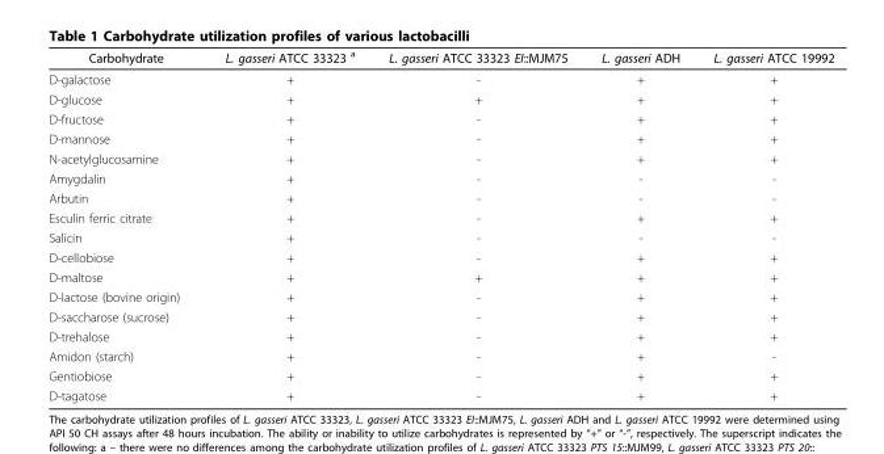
<table><thead><tr><td>Carbohydrate</td><td>L. gasseri ATCC 33323 <sup>a</sup></td><td>L. gasseri ATCC 33323 EI::MJM75</td><td>L. gasseri ADH</td><td>L. gasseri ATCC 19992</td></tr></thead><tbody><tr><td>D-galactose</td><td>+</td><td>-</td><td>+</td><td>+</td></tr><tr><td>D-glucose</td><td>+</td><td>+</td><td>+</td><td>+</td></tr><tr><td>D-fructose</td><td>+</td><td>-</td><td>+</td><td>+</td></tr><tr><td>D-mannose</td><td>+</td><td>-</td><td>+</td><td>+</td></tr><tr><td>N-acetylglucosamine</td><td>+</td><td>-</td><td>+</td><td>+</td></tr><tr><td>Amygdalin</td><td>+</td><td>-</td><td>-</td><td>-</td></tr><tr><td>Arbutin</td><td>+</td><td>-</td><td>-</td><td>-</td></tr><tr><td>Esculin ferric citrate</td><td>+</td><td>-</td><td>+</td><td>+</td></tr><tr><td>Salicin</td><td>+</td><td>-</td><td>-</td><td>-</td></tr><tr><td>D-cellobiose</td><td>+</td><td>-</td><td>+</td><td>+</td></tr><tr><td>D-maltose</td><td>+</td><td>+</td><td>+</td><td>+</td></tr><tr><td>D-lactose (bovine origin)</td><td>+</td><td>-</td><td>+</td><td>+</td></tr><tr><td>D-saccharose (sucrose)</td><td>+</td><td>-</td><td>+</td><td>+</td></tr><tr><td>D-trehalose</td><td>+</td><td>-</td><td>+</td><td>+</td></tr><tr><td>Amidon (starch)</td><td>+</td><td>-</td><td>+</td><td>-</td></tr><tr><td>Gentiobiose</td><td>+</td><td>-</td><td>+</td><td>+</td></tr><tr><td>D-tagatose</td><td>+</td><td>-</td><td>+</td><td>+</td></tr></tbody></table>